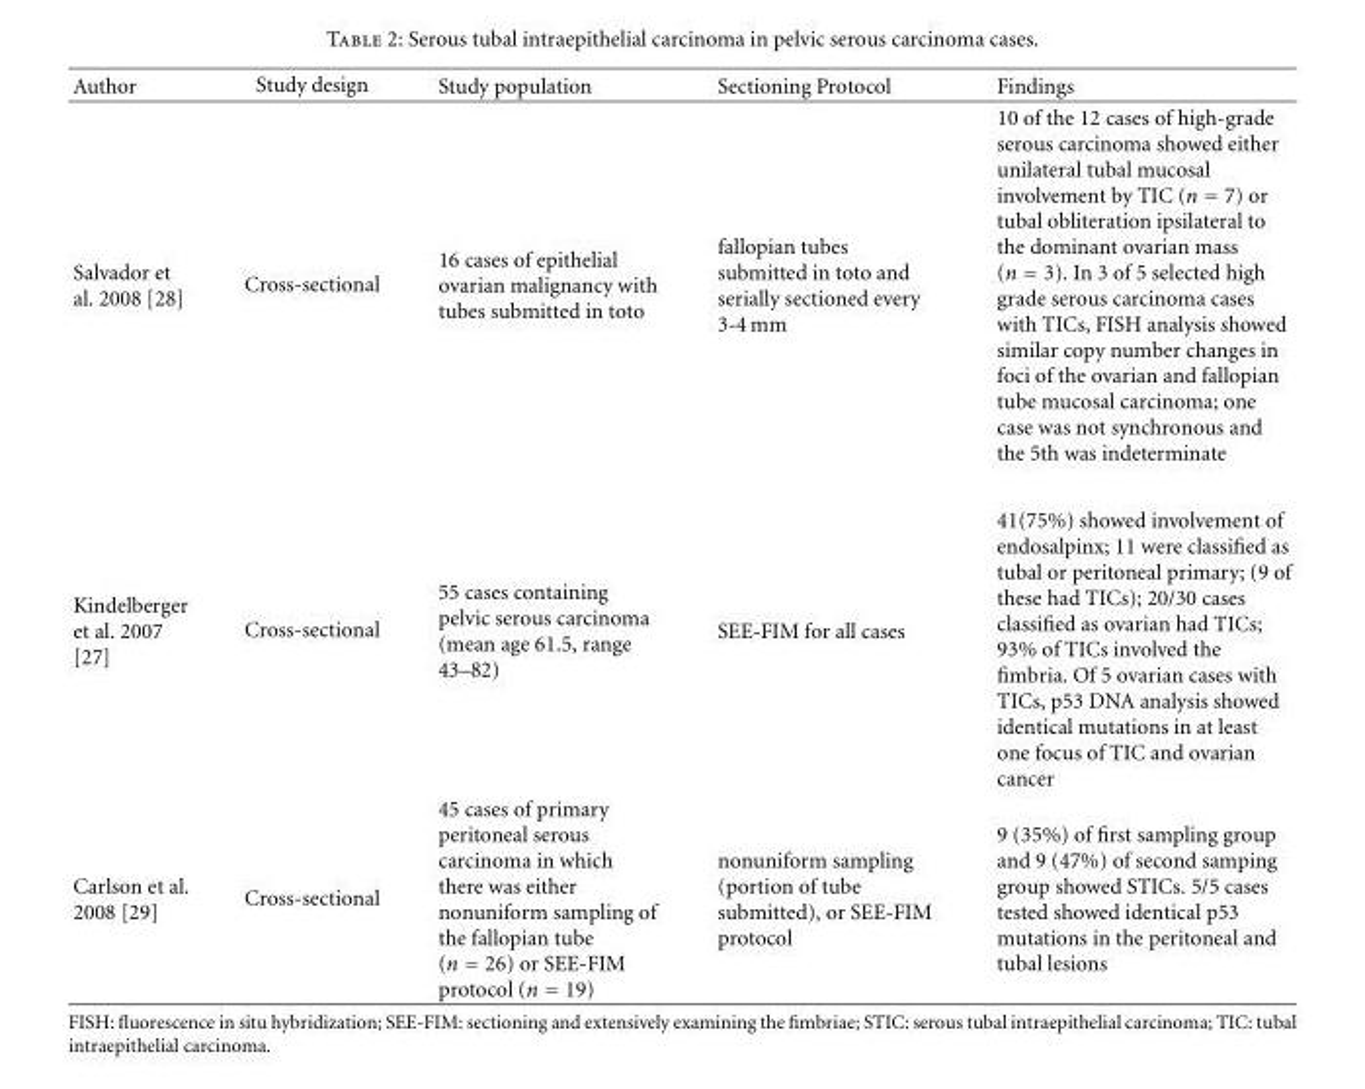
<table><thead><tr><td>Author</td><td>Study design</td><td>Study population</td><td>Sectioning Protocol</td><td>Findings</td></tr></thead><tbody><tr><td>Salvador et al. 2008 [28]</td><td>Cross-sectional</td><td>16 cases of epithelial ovarian malignancy with tubes submitted in toto</td><td>fallopian tubes submitted in toto and serially sectioned every 3-4 mm</td><td>10 of the 12 cases of high-grade serous carcinoma showed either unilateral tubal mucosal involvement by TIC (n = 7) or tubal obliteration ipsilateral to the dominant ovarian mass (n = 3). In 3 of 5 selected high grade serous carcinoma cases with TICs, FISH analysis showed similar copy number changes in foci of the ovarian and fallopian tube mucosal carcinoma; one case was not synchronous and the 5th was indeterminate</td></tr><tr><td>Kindelberger et al. 2007 [27]</td><td>Cross-sectional</td><td>55 cases containing pelvic serous carcinoma (mean age 61.5, range 43–82)</td><td>SEE-FIM for all cases</td><td>41(75%) showed involvement of endosalpinx; 11 were classified as tubal or peritoneal primary; (9 of these had TICs); 20/30 cases classified as ovarian had TICs; 93% of TICs involved the fimbria. Of 5 ovarian cases with TICs, p53 DNA analysis showed identical mutations in at least one focus of TIC and ovarian cancer</td></tr><tr><td>Carlson et al. 2008 [29]</td><td>Cross-sectional</td><td>45 cases of primary peritoneal serous carcinoma in which there was either nonuniform sampling of the fallopian tube (n = 26) or SEE-FIM protocol (n = 19)</td><td>nonuniform sampling (portion of tube submitted), or SEE-FIM protocol</td><td>9 (35%) of first sampling group and 9 (47%) of second samping group showed STICs. 5/5 cases tested showed identical p53 mutations in the peritoneal and tubal lesions</td></tr></tbody></table>